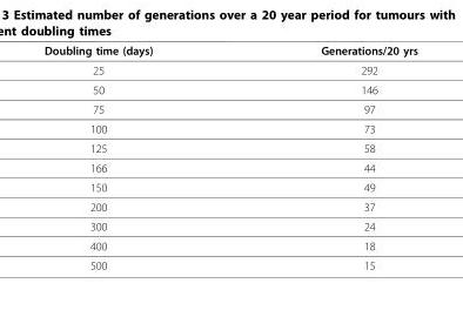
<table><thead><tr><td>Doubling time (days)</td><td>Generations/20 yrs</td></tr></thead><tbody><tr><td>25</td><td>292</td></tr><tr><td>50</td><td>146</td></tr><tr><td>75</td><td>97</td></tr><tr><td>100</td><td>73</td></tr><tr><td>125</td><td>58</td></tr><tr><td>166</td><td>44</td></tr><tr><td>150</td><td>49</td></tr><tr><td>200</td><td>37</td></tr><tr><td>300</td><td>24</td></tr><tr><td>400</td><td>18</td></tr><tr><td>500</td><td>15</td></tr></tbody></table>